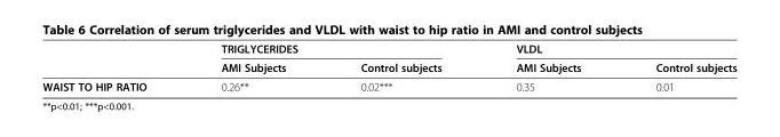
<table><thead><tr><td rowspan="2"></td><td colspan="2">TRIGLYCERIDES</td><td colspan="2">VLDL</td></tr><tr><td>AMI Subjects</td><td>Control subjects</td><td>AMI Subjects</td><td>Control subjects</td></tr></thead><tbody><tr><td>WAIST TO HIP RATIO</td><td>0.26**</td><td>0.02***</td><td>0.35</td><td>0.01</td></tr></tbody></table>